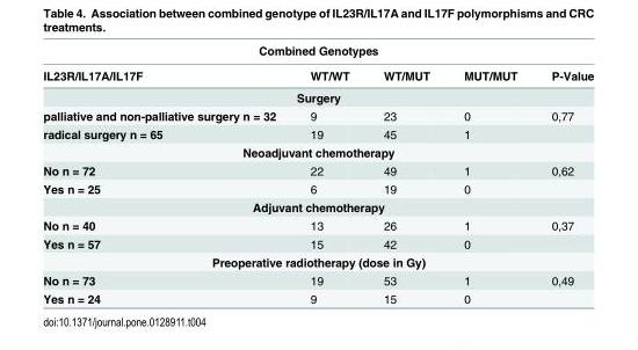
<table><thead><tr><td colspan="5">Combined Genotypes</td></tr><tr><td>IL23R/IL17A/IL17F</td><td>WT/WT</td><td>WT/MUT</td><td>MUT/MUT</td><td>P-Value</td></tr></thead><tbody><tr><td colspan="5">Surgery</td></tr><tr><td>palliative and non-palliative surgery n = 32</td><td>9</td><td>23</td><td>0</td><td>0,77</td></tr><tr><td>radical surgery n = 65</td><td>19</td><td>45</td><td>1</td><td></td></tr><tr><td colspan="5">Neoadjuvant chemotherapy</td></tr><tr><td>No n = 72</td><td>22</td><td>49</td><td>1</td><td>0,62</td></tr><tr><td>Yes n = 25</td><td>6</td><td>19</td><td>0</td><td></td></tr><tr><td colspan="5">Adjuvant chemotherapy</td></tr><tr><td>No n = 40</td><td>13</td><td>26</td><td>1</td><td>0,37</td></tr><tr><td>Yes n = 57</td><td>15</td><td>42</td><td>0</td><td></td></tr><tr><td colspan="5">Preoperative radiotherapy (dose in Gy)</td></tr><tr><td>No n = 73</td><td>19</td><td>53</td><td>1</td><td>0,49</td></tr><tr><td>Yes n = 24</td><td>9</td><td>15</td><td>0</td><td></td></tr></tbody></table>